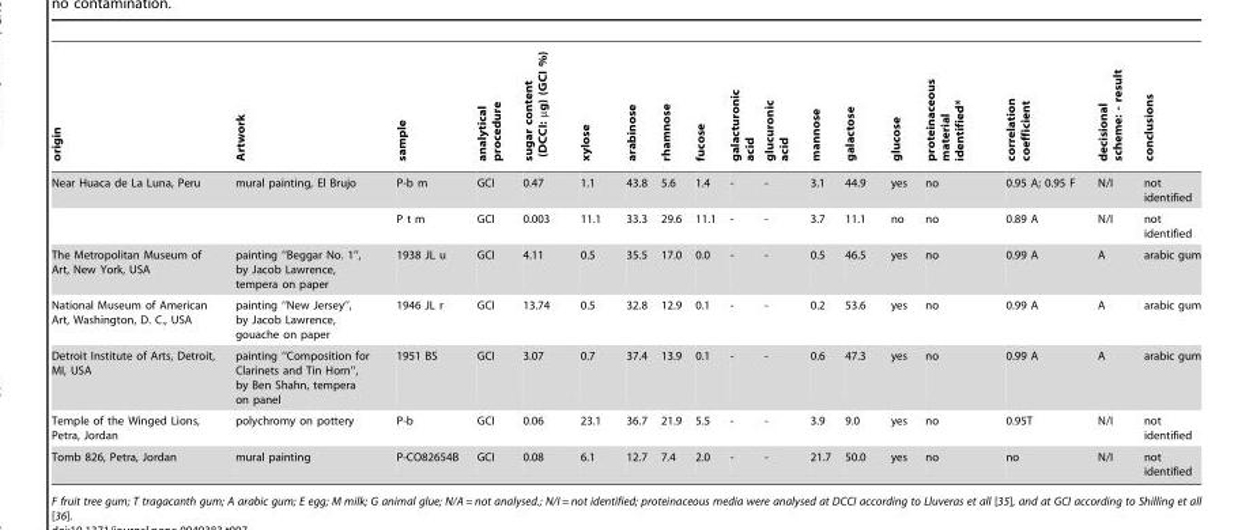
<table><thead><tr><td>origin</td><td>Artwork</td><td>sample</td><td>analytical procedure</td><td>sugar content (DCCI: µg) (GCI %)</td><td>xylose</td><td>arabinose</td><td>rhamnose</td><td>fucose</td><td>galacturonic acid</td><td>glucuronic acid</td><td>mannose</td><td>galactose</td><td>glucose</td><td>proteinaceous material identified*</td><td>correlation coefficient</td><td>decisional scheme: - result</td><td>conclusions</td></tr></thead><tbody><tr><td rowspan="2">Near Huaca de La Luna, Peru</td><td>mural painting, El Brujo</td><td>P-b m</td><td>GCI</td><td>0.47</td><td>1.1</td><td>43.8</td><td>5.6</td><td>1.4</td><td>-</td><td>-</td><td>3.1</td><td>44.9</td><td>yes</td><td>no</td><td>0.95 A; 0.95 F</td><td>N/I</td><td>not identified</td></tr><tr><td></td><td>P t m</td><td>GCI</td><td>0.003</td><td>11.1</td><td>33.3</td><td>29.6</td><td>11.1</td><td>-</td><td>-</td><td>3.7</td><td>11.1</td><td>no</td><td>no</td><td>0.89 A</td><td>N/I</td><td>not identified</td></tr><tr><td>The Metropolitan Museum of Art, New York, USA</td><td>painting ‘‘Beggar No. 1’’, by Jacob Lawrence, tempera on paper</td><td>1938 JL u</td><td>GCI</td><td>4.11</td><td>0.5</td><td>35.5</td><td>17.0</td><td>0.0</td><td>-</td><td>-</td><td>0.5</td><td>46.5</td><td>yes</td><td>no</td><td>0.99 A</td><td>A</td><td>arabic gum</td></tr><tr><td>National Museum of American Art, Washington, D. C., USA</td><td>painting ‘‘New Jersey’’, by Jacob Lawrence, gouache on paper</td><td>1946 JL r</td><td>GCI</td><td>13.74</td><td>0.5</td><td>32.8</td><td>12.9</td><td>0.1</td><td>-</td><td>-</td><td>0.2</td><td>53.6</td><td>yes</td><td>no</td><td>0.99 A</td><td>A</td><td>arabic gum</td></tr><tr><td>Detroit Institute of Arts, Detroit, MI, USA</td><td>painting ‘‘Composition for Clarinets and Tin Horn’’, by Ben Shahn, tempera on panel</td><td>1951 BS</td><td>GCI</td><td>3.07</td><td>0.7</td><td>37.4</td><td>13.9</td><td>0.1</td><td>-</td><td>-</td><td>0.6</td><td>47.3</td><td>yes</td><td>no</td><td>0.99 A</td><td>A</td><td>arabic gum</td></tr><tr><td>Temple of the Winged Lions, Petra, Jordan</td><td>polychromy on pottery</td><td>P-b</td><td>GCI</td><td>0.06</td><td>23.1</td><td>36.7</td><td>21.9</td><td>5.5</td><td>-</td><td>-</td><td>3.9</td><td>9.0</td><td>yes</td><td>no</td><td>0.95T</td><td>N/I</td><td>not identified</td></tr><tr><td>Tomb 826, Petra, Jordan</td><td>mural painting</td><td>P-CO82654B</td><td>GCI</td><td>0.08</td><td>6.1</td><td>12.7</td><td>7.4</td><td>2.0</td><td>-</td><td>-</td><td>21.7</td><td>50.0</td><td>yes</td><td>no</td><td>no</td><td>N/I</td><td>not identified</td></tr></tbody></table>